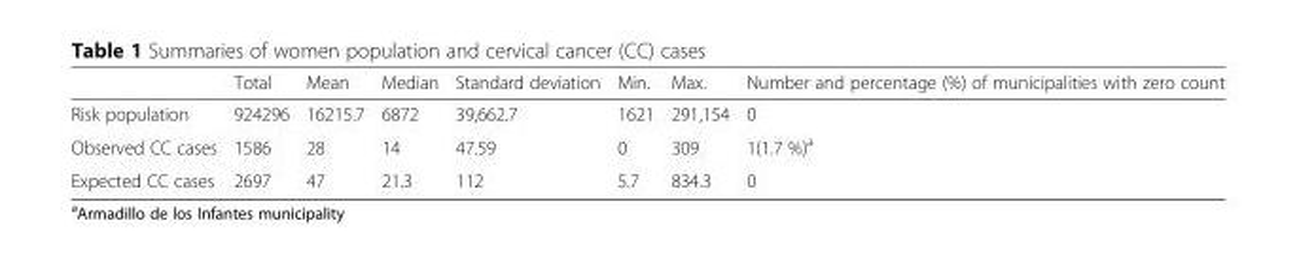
<table><thead><tr><td></td><td>Total</td><td>Mean</td><td>Median</td><td>Standard deviation</td><td>Min.</td><td>Max.</td><td>Number and percentage (%) of municipalities with zero count</td></tr></thead><tbody><tr><td>Risk population</td><td>924296</td><td>16215.7</td><td>6872</td><td>39,662.7</td><td>1621</td><td>291,154</td><td>0</td></tr><tr><td>Observed CC cases</td><td>1586</td><td>28</td><td>14</td><td>47.59</td><td>0</td><td>309</td><td>1(1.7 %)<sup>a</sup></td></tr><tr><td>Expected CC cases</td><td>2697</td><td>47</td><td>21.3</td><td>112</td><td>5.7</td><td>834.3</td><td>0</td></tr></tbody></table>